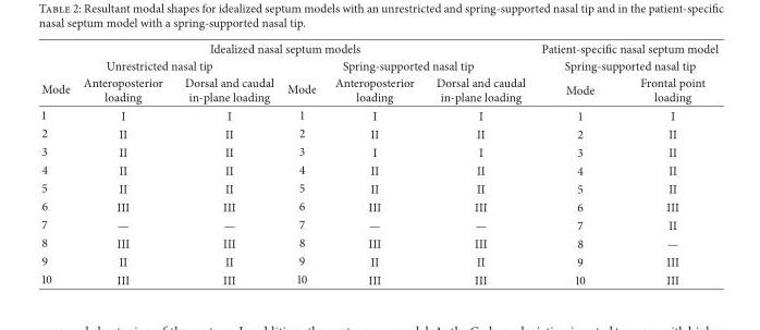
<table><thead><tr><td colspan="6">Idealized nasal septum models</td><td rowspan="2" colspan="2">Patient-specific nasal septum model Spring-supported nasal tip</td></tr><tr><td colspan="3">Unrestricted nasal tip</td><td colspan="3">Spring-supported nasal tip</td></tr><tr><td>Mode</td><td>Anteroposterior loading</td><td>Dorsal and caudal in-plane loading</td><td>Mode</td><td>Anteroposterior loading</td><td>Dorsal and caudal in-plane loading</td><td>Mode</td><td>Frontal point loading</td></tr></thead><tbody><tr><td>1</td><td>I</td><td>I</td><td>1</td><td>I</td><td>I</td><td>1</td><td>I</td></tr><tr><td>2</td><td>II</td><td>II</td><td>2</td><td>II</td><td>II</td><td>2</td><td>II</td></tr><tr><td>3</td><td>II</td><td>II</td><td>3</td><td>I</td><td>I</td><td>3</td><td>II</td></tr><tr><td>4</td><td>II</td><td>II</td><td>4</td><td>II</td><td>II</td><td>4</td><td>II</td></tr><tr><td>5</td><td>II</td><td>II</td><td>5</td><td>II</td><td>II</td><td>5</td><td>II</td></tr><tr><td>6</td><td>III</td><td>III</td><td>6</td><td>III</td><td>III</td><td>6</td><td>III</td></tr><tr><td>7</td><td>—</td><td>—</td><td>7</td><td>—</td><td>—</td><td>7</td><td>II</td></tr><tr><td>8</td><td>III</td><td>III</td><td>8</td><td>III</td><td>III</td><td>8</td><td>—</td></tr><tr><td>9</td><td>II</td><td>II</td><td>9</td><td>II</td><td>II</td><td>9</td><td>III</td></tr><tr><td>10</td><td>III</td><td>III</td><td>10</td><td>III</td><td>III</td><td>10</td><td>III</td></tr></tbody></table>